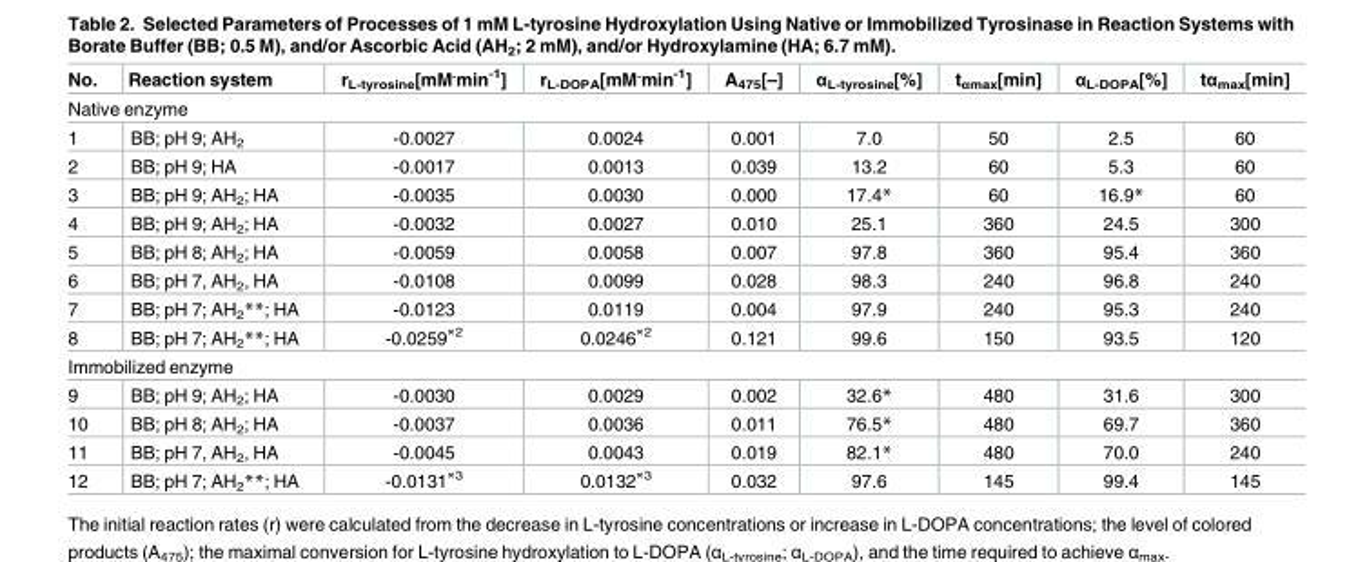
<table><thead><tr><td>No.</td><td>Reaction system</td><td>r<sub>L-tyrosine</sub>[mM<sup>.</sup>min<sup>-1</sup>]</td><td>r<sub>L-DOPA</sub>[mM<sup>.</sup>min<sup>-1</sup>]</td><td>A<sub>475</sub>[–]</td><td>α<sub>L-tyrosine</sub>[%]</td><td>t<sub>αmax</sub>[min]</td><td>α<sub>L-DOPA</sub>[%]</td><td>tα<sub>max</sub>[min]</td></tr></thead><tbody><tr><td colspan="9">Native enzyme</td></tr><tr><td>1</td><td>BB; pH 9; AH<sub>2</sub></td><td>-0.0027</td><td>0.0024</td><td>0.001</td><td>7.0</td><td>50</td><td>2.5</td><td>60</td></tr><tr><td>2</td><td>BB; pH 9; HA</td><td>-0.0017</td><td>0.0013</td><td>0.039</td><td>13.2</td><td>60</td><td>5.3</td><td>60</td></tr><tr><td>3</td><td>BB; pH 9; AH<sub>2</sub>; HA</td><td>-0.0035</td><td>0.0030</td><td>0.000</td><td>17.4*</td><td>60</td><td>16.9*</td><td>60</td></tr><tr><td>4</td><td>BB; pH 9; AH<sub>2</sub>; HA</td><td>-0.0032</td><td>0.0027</td><td>0.010</td><td>25.1</td><td>360</td><td>24.5</td><td>300</td></tr><tr><td>5</td><td>BB; pH 8; AH<sub>2</sub>; HA</td><td>-0.0059</td><td>0.0058</td><td>0.007</td><td>97.8</td><td>360</td><td>95.4</td><td>360</td></tr><tr><td>6</td><td>BB; pH 7, AH<sub>2</sub>, HA</td><td>-0.0108</td><td>0.0099</td><td>0.028</td><td>98.3</td><td>240</td><td>96.8</td><td>240</td></tr><tr><td>7</td><td>BB; pH 7; AH<sub>2</sub>**; HA</td><td>-0.0123</td><td>0.0119</td><td>0.004</td><td>97.9</td><td>240</td><td>95.3</td><td>240</td></tr><tr><td>8</td><td>BB; pH 7; AH<sub>2</sub>**; HA</td><td>-0.0259<sup>×2</sup></td><td>0.0246<sup>×2</sup></td><td>0.121</td><td>99.6</td><td>150</td><td>93.5</td><td>120</td></tr><tr><td colspan="9">Immobilized enzyme</td></tr><tr><td>9</td><td>BB; pH 9; AH<sub>2</sub>; HA</td><td>-0.0030</td><td>0.0029</td><td>0.002</td><td>32.6*</td><td>480</td><td>31.6</td><td>300</td></tr><tr><td>10</td><td>BB; pH 8; AH<sub>2</sub>; HA</td><td>-0.0037</td><td>0.0036</td><td>0.011</td><td>76.5*</td><td>480</td><td>69.7</td><td>360</td></tr><tr><td>11</td><td>BB; pH 7, AH<sub>2</sub>, HA</td><td>-0.0045</td><td>0.0043</td><td>0.019</td><td>82.1*</td><td>480</td><td>70.0</td><td>240</td></tr><tr><td>12</td><td>BB; pH 7; AH<sub>2</sub>**; HA</td><td>-0.0131<sup>×3</sup></td><td>0.0132<sup>×3</sup></td><td>0.032</td><td>97.6</td><td>145</td><td>99.4</td><td>145</td></tr></tbody></table>